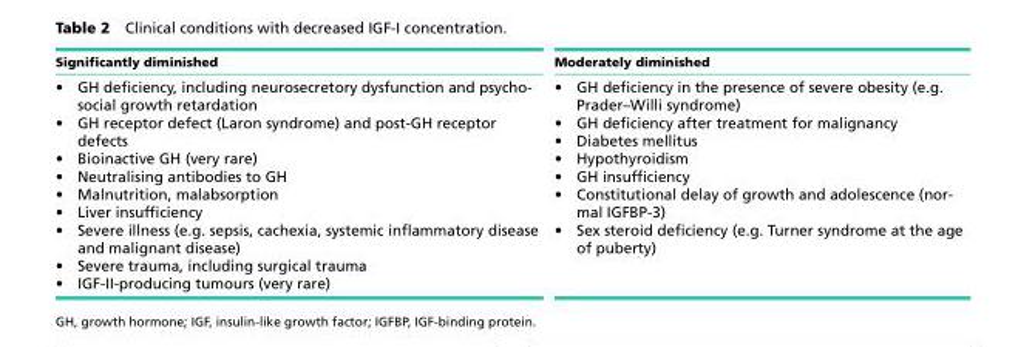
<table><thead><tr><td>Significantly diminished</td><td>Moderately diminished</td></tr></thead><tbody><tr><td>• GH deficiency, including neurosecretory dysfunction and psycho- social growth retardation • GH receptor defect (Laron syndrome) and post-GH receptor defects • Bioinactive GH (very rare) • Neutralising antibodies to GH • Malnutrition, malabsorption • Liver insufficiency • Severe illness (e.g. sepsis, cachexia, systemic inflammatory disease and malignant disease) • Severe trauma, including surgical trauma • IGF-II-producing tumours (very rare)</td><td>• GH deficiency in the presence of severe obesity (e.g. Prader–Willi syndrome) • GH deficiency after treatment for malignancy • Diabetes mellitus • Hypothyroidism • GH insufficiency • Constitutional delay of growth and adolescence (nor- mal IGFBP-3) • Sex steroid deficiency (e.g. Turner syndrome at the age of puberty)</td></tr></tbody></table>